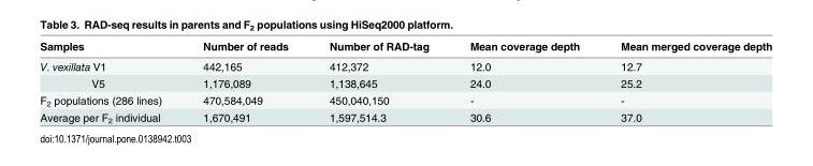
<table><thead><tr><td>Samples</td><td>Number of reads</td><td>Number of RAD-tag</td><td>Mean coverage depth</td><td>Mean merged coverage depth</td></tr></thead><tbody><tr><td>V. vexillata V1</td><td>442,165</td><td>412,372</td><td>12.0</td><td>12.7</td></tr><tr><td>V5</td><td>1,176,089</td><td>1,138,645</td><td>24.0</td><td>25.2</td></tr><tr><td>F<sub>2</sub> populations (286 lines)</td><td>470,584,049</td><td>450,040,150</td><td>-</td><td>-</td></tr><tr><td>Average per F<sub>2</sub> individual</td><td>1,670,491</td><td>1,597,514.3</td><td>30.6</td><td>37.0</td></tr></tbody></table>